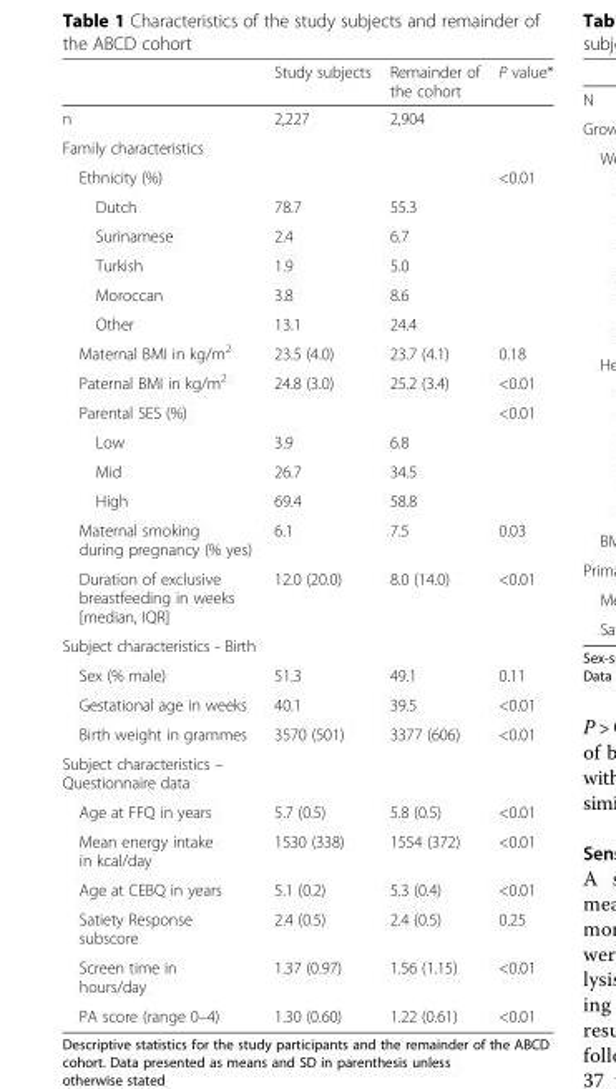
<table><thead><tr><td></td><td>Study subjects</td><td>Remainder of the cohort</td><td>P value*</td></tr></thead><tbody><tr><td>n</td><td>2,227</td><td>2,904</td><td></td></tr><tr><td colspan="4">Family characteristics</td></tr><tr><td>Ethnicity (%)</td><td></td><td></td><td>&lt;0.01</td></tr><tr><td>Dutch</td><td>78.7</td><td>55.3</td><td></td></tr><tr><td>Surinamese</td><td>2.4</td><td>6.7</td><td></td></tr><tr><td>Turkish</td><td>1.9</td><td>5.0</td><td></td></tr><tr><td>Moroccan</td><td>3.8</td><td>8.6</td><td></td></tr><tr><td>Other</td><td>13.1</td><td>24.4</td><td></td></tr><tr><td>Maternal BMI in kg/m<sup>2</sup></td><td>23.5 (4.0)</td><td>23.7 (4.1)</td><td>0.18</td></tr><tr><td>Paternal BMI in kg/m<sup>2</sup></td><td>24.8 (3.0)</td><td>25.2 (3.4)</td><td>&lt;0.01</td></tr><tr><td>Parental SES (%)</td><td></td><td></td><td>&lt;0.01</td></tr><tr><td>Low</td><td>3.9</td><td>6.8</td><td></td></tr><tr><td>Mid</td><td>26.7</td><td>34.5</td><td></td></tr><tr><td>High</td><td>69.4</td><td>58.8</td><td></td></tr><tr><td>Maternal smoking during pregnancy (% yes)</td><td>6.1</td><td>7.5</td><td>0.03</td></tr><tr><td>Duration of exclusive breastfeeding in weeks [median, IQR]</td><td>12.0 (20.0)</td><td>8.0 (14.0)</td><td>&lt;0.01</td></tr><tr><td colspan="4">Subject characteristics - Birth</td></tr><tr><td>Sex (% male)</td><td>51.3</td><td>49.1</td><td>0.11</td></tr><tr><td>Gestational age in weeks</td><td>40.1</td><td>39.5</td><td>&lt;0.01</td></tr><tr><td>Birth weight in grammes</td><td>3570 (501)</td><td>3377 (606)</td><td>&lt;0.01</td></tr><tr><td colspan="4">Subject characteristics – Questionnaire data</td></tr><tr><td>Age at FFQ in years</td><td>5.7 (0.5)</td><td>5.8 (0.5)</td><td>&lt;0.01</td></tr><tr><td>Mean energy intake in kcal/day</td><td>1530 (338)</td><td>1554 (372)</td><td>&lt;0.01</td></tr><tr><td>Age at CEBQ in years</td><td>5.1 (0.2)</td><td>5.3 (0.4)</td><td>&lt;0.01</td></tr><tr><td>Satiety Response subscore</td><td>2.4 (0.5)</td><td>2.4 (0.5)</td><td>0.25</td></tr><tr><td>Screen time in hours/day</td><td>1.37 (0.97)</td><td>1.56 (1.15)</td><td>&lt;0.01</td></tr><tr><td>PA score (range 0–4)</td><td>1.30 (0.60)</td><td>1.22 (0.61)</td><td>&lt;0.01</td></tr></tbody></table>